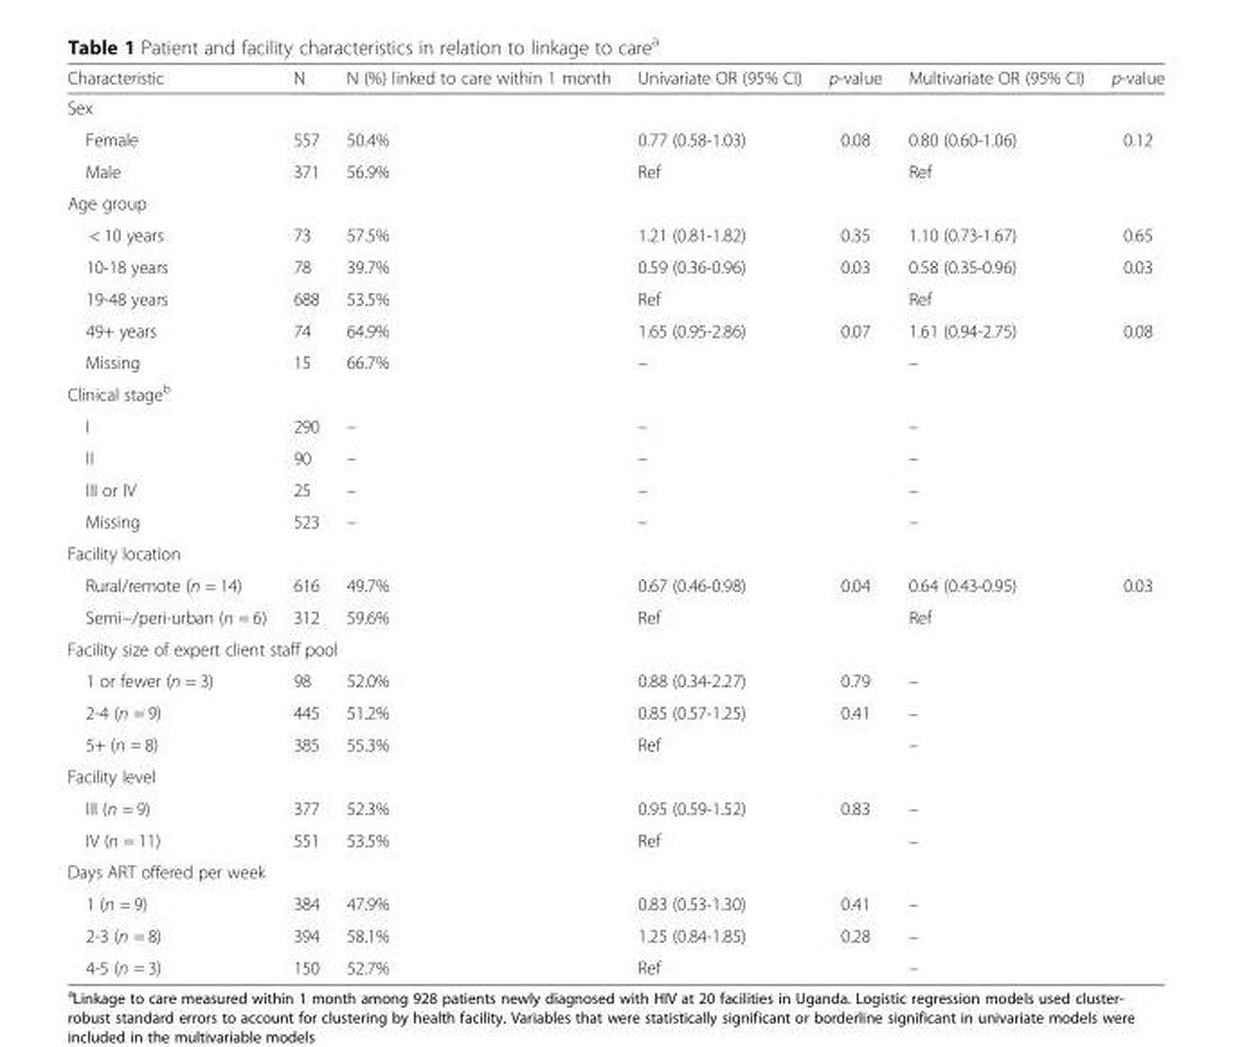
<table><thead><tr><td>Characteristic</td><td>N</td><td>N (%) linked to care within 1 month</td><td>Univariate OR (95% CI)</td><td>p-value</td><td>Multivariate OR (95% CI)</td><td>p-value</td></tr></thead><tbody><tr><td colspan="7">Sex</td></tr><tr><td>Female</td><td>557</td><td>50.4%</td><td>0.77 (0.58-1.03)</td><td>0.08</td><td>0.80 (0.60-1.06)</td><td>0.12</td></tr><tr><td>Male</td><td>371</td><td>56.9%</td><td>Ref</td><td></td><td>Ref</td><td></td></tr><tr><td colspan="7">Age group</td></tr><tr><td>&lt; 10 years</td><td>73</td><td>57.5%</td><td>1.21 (0.81-1.82)</td><td>0.35</td><td>1.10 (0.73-1.67)</td><td>0.65</td></tr><tr><td>10-18 years</td><td>78</td><td>39.7%</td><td>0.59 (0.36-0.96)</td><td>0.03</td><td>0.58 (0.35-0.96)</td><td>0.03</td></tr><tr><td>19-48 years</td><td>688</td><td>53.5%</td><td>Ref</td><td></td><td>Ref</td><td></td></tr><tr><td>49+ years</td><td>74</td><td>64.9%</td><td>1.65 (0.95-2.86)</td><td>0.07</td><td>1.61 (0.94-2.75)</td><td>0.08</td></tr><tr><td>Missing</td><td>15</td><td>66.7%</td><td>–</td><td></td><td>–</td><td></td></tr><tr><td colspan="7">Clinical stage<sup>b</sup></td></tr><tr><td>I</td><td>290</td><td>–</td><td>–</td><td></td><td>–</td><td></td></tr><tr><td>II</td><td>90</td><td>–</td><td>–</td><td></td><td>–</td><td></td></tr><tr><td>III or IV</td><td>25</td><td>–</td><td>–</td><td></td><td>–</td><td></td></tr><tr><td>Missing</td><td>523</td><td>–</td><td>–</td><td></td><td>–</td><td></td></tr><tr><td colspan="7">Facility location</td></tr><tr><td>Rural/remote (n = 14)</td><td>616</td><td>49.7%</td><td>0.67 (0.46-0.98)</td><td>0.04</td><td>0.64 (0.43-0.95)</td><td>0.03</td></tr><tr><td>Semi−/peri-urban (n = 6)</td><td>312</td><td>59.6%</td><td>Ref</td><td></td><td>Ref</td><td></td></tr><tr><td colspan="7">Facility size of expert client staff pool</td></tr><tr><td>1 or fewer (n = 3)</td><td>98</td><td>52.0%</td><td>0.88 (0.34-2.27)</td><td>0.79</td><td>–</td><td></td></tr><tr><td>2-4 (n = 9)</td><td>445</td><td>51.2%</td><td>0.85 (0.57-1.25)</td><td>0.41</td><td>–</td><td></td></tr><tr><td>5+ (n = 8)</td><td>385</td><td>55.3%</td><td>Ref</td><td></td><td>–</td><td></td></tr><tr><td colspan="7">Facility level</td></tr><tr><td>III (n = 9)</td><td>377</td><td>52.3%</td><td>0.95 (0.59-1.52)</td><td>0.83</td><td>–</td><td></td></tr><tr><td>IV (n = 11)</td><td>551</td><td>53.5%</td><td>Ref</td><td></td><td>–</td><td></td></tr><tr><td colspan="7">Days ART offered per week</td></tr><tr><td>1 (n = 9)</td><td>384</td><td>47.9%</td><td>0.83 (0.53-1.30)</td><td>0.41</td><td>–</td><td></td></tr><tr><td>2-3 (n = 8)</td><td>394</td><td>58.1%</td><td>1.25 (0.84-1.85)</td><td>0.28</td><td>–</td><td></td></tr><tr><td>4-5 (n = 3)</td><td>150</td><td>52.7%</td><td>Ref</td><td></td><td>–</td><td></td></tr></tbody></table>